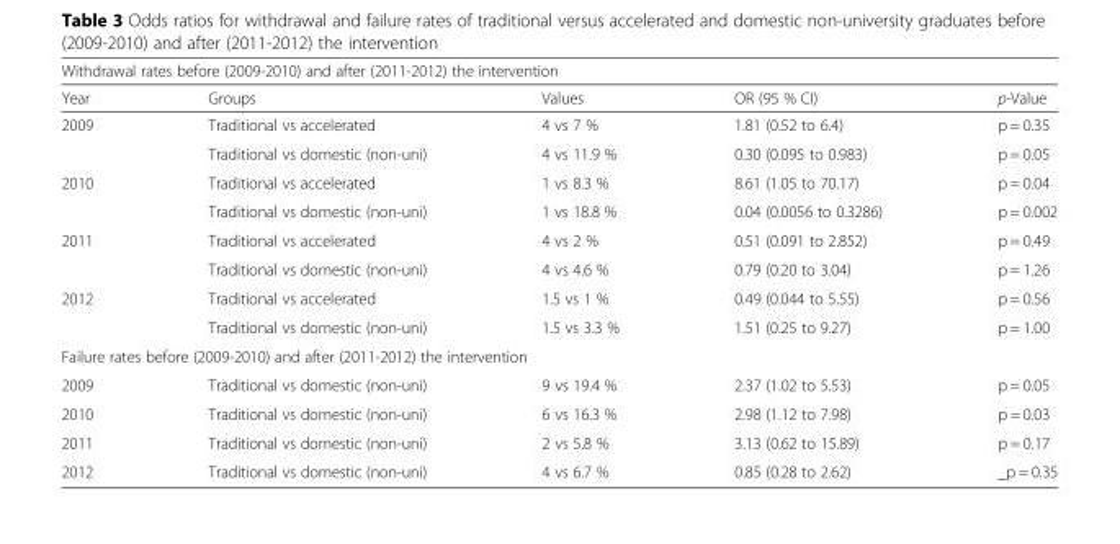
<table><thead><tr><td colspan="5">Withdrawal rates before (2009-2010) and after (2011-2012) the intervention</td></tr><tr><td>Year</td><td>Groups</td><td>Values</td><td>OR (95 % CI)</td><td>p-Value</td></tr></thead><tbody><tr><td rowspan="2">2009</td><td>Traditional vs accelerated</td><td>4 vs 7 %</td><td>1.81 (0.52 to 6.4)</td><td>p = 0.35</td></tr><tr><td>Traditional vs domestic (non-uni)</td><td>4 vs 11.9 %</td><td>0.30 (0.095 to 0.983)</td><td>p = 0.05</td></tr><tr><td rowspan="2">2010</td><td>Traditional vs accelerated</td><td>1 vs 8.3 %</td><td>8.61 (1.05 to 70.17)</td><td>p = 0.04</td></tr><tr><td>Traditional vs domestic (non-uni)</td><td>1 vs 18.8 %</td><td>0.04 (0.0056 to 0.3286)</td><td>p = 0.002</td></tr><tr><td rowspan="2">2011</td><td>Traditional vs accelerated</td><td>4 vs 2 %</td><td>0.51 (0.091 to 2.852)</td><td>p = 0.49</td></tr><tr><td>Traditional vs domestic (non-uni)</td><td>4 vs 4.6 %</td><td>0.79 (0.20 to 3.04)</td><td>p = 1.26</td></tr><tr><td rowspan="2">2012</td><td>Traditional vs accelerated</td><td>1.5 vs 1 %</td><td>0.49 (0.044 to 5.55)</td><td>p = 0.56</td></tr><tr><td>Traditional vs domestic (non-uni)</td><td>1.5 vs 3.3 %</td><td>1.51 (0.25 to 9.27)</td><td>p = 1.00</td></tr><tr><td colspan="5">Failure rates before (2009-2010) and after (2011-2012) the intervention</td></tr><tr><td>2009</td><td>Traditional vs domestic (non-uni)</td><td>9 vs 19.4 %</td><td>2.37 (1.02 to 5.53)</td><td>p = 0.05</td></tr><tr><td>2010</td><td>Traditional vs domestic (non-uni)</td><td>6 vs 16.3 %</td><td>2.98 (1.12 to 7.98)</td><td>p = 0.03</td></tr><tr><td>2011</td><td>Traditional vs domestic (non-uni)</td><td>2 vs 5.8 %</td><td>3.13 (0.62 to 15.89)</td><td>p = 0.17</td></tr><tr><td>2012</td><td>Traditional vs domestic (non-uni)</td><td>4 vs 6.7 %</td><td>0.85 (0.28 to 2.62)</td><td>_p = 0.35</td></tr></tbody></table>